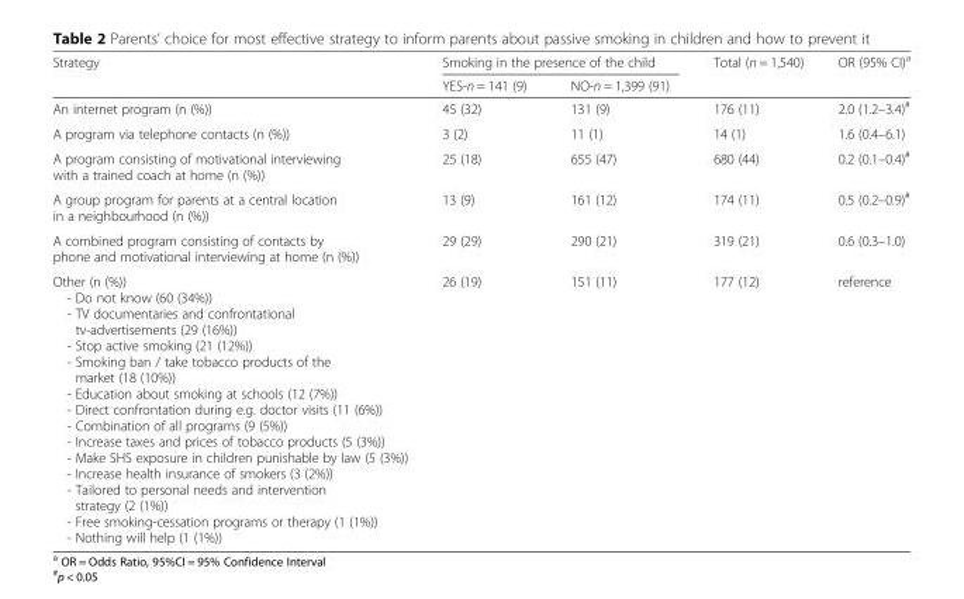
<table><thead><tr><td rowspan="2">Strategy</td><td colspan="2">Smoking in the presence of the child</td><td rowspan="2">Total (n = 1,540)</td><td rowspan="2">OR (95% CI)<sup>a</sup></td></tr><tr><td>YES-n = 141 (9)</td><td>NO-n = 1,399 (91)</td></tr></thead><tbody><tr><td>An internet program (n (%))</td><td>45 (32)</td><td>131 (9)</td><td>176 (11)</td><td>2.0 (1.2–3.4)<sup>#</sup></td></tr><tr><td>A program via telephone contacts (n (%))</td><td>3 (2)</td><td>11 (1)</td><td>14 (1)</td><td>1.6 (0.4–6.1)</td></tr><tr><td>A program consisting of motivational interviewing with a trained coach at home (n (%))</td><td>25 (18)</td><td>655 (47)</td><td>680 (44)</td><td>0.2 (0.1–0.4)<sup>#</sup></td></tr><tr><td>A group program for parents at a central location in a neighbourhood (n (%))</td><td>13 (9)</td><td>161 (12)</td><td>174 (11)</td><td>0.5 (0.2–0.9)<sup>#</sup></td></tr><tr><td>A combined program consisting of contacts by phone and motivational interviewing at home (n (%))</td><td>29 (29)</td><td>290 (21)</td><td>319 (21)</td><td>0.6 (0.3–1.0)</td></tr><tr><td>Other (n (%)) - Do not know (60 (34%)) - TV documentaries and confrontational tv-advertisements (29 (16%)) - Stop active smoking (21 (12%)) - Smoking ban / take tobacco products of the market (18 (10%)) - Education about smoking at schools (12 (7%)) - Direct confrontation during e.g. doctor visits (11 (6%)) - Combination of all programs (9 (5%)) - Increase taxes and prices of tobacco products (5 (3%)) - Make SHS exposure in children punishable by law (5 (3%)) - Increase health insurance of smokers (3 (2%)) - Tailored to personal needs and intervention strategy (2 (1%)) - Free smoking-cessation programs or therapy (1 (1%)) - Nothing will help (1 (1%))</td><td>26 (19)</td><td>151 (11)</td><td>177 (12)</td><td>reference</td></tr></tbody></table>